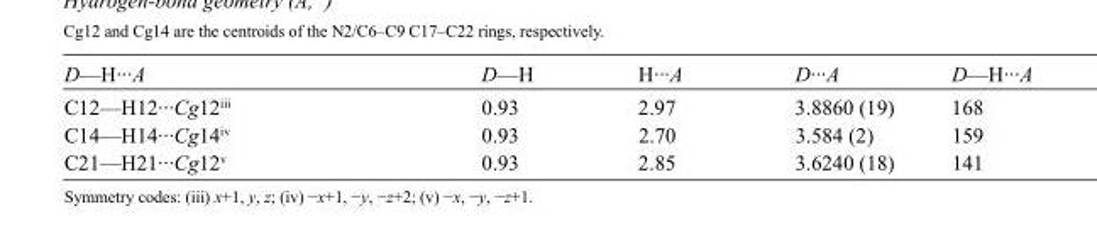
<table><tbody><tr><td>D—H···A</td><td>D—H</td><td>H···A</td><td>D···A</td><td>D—H···A</td></tr><tr><td>C12—H12···Cg12<sup>iii</sup></td><td>0.93</td><td>2.97</td><td>3.8860 (19)</td><td>168</td></tr><tr><td>C14—H14···Cg14<sup>iv</sup></td><td>0.93</td><td>2.70</td><td>3.584 (2)</td><td>159</td></tr><tr><td>C21—H21···Cg12<sup>v</sup></td><td>0.93</td><td>2.85</td><td>3.6240 (18)</td><td>141</td></tr></tbody></table>